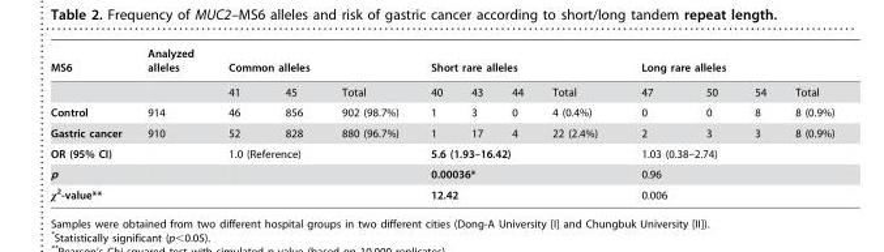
<table><thead><tr><td rowspan="2">MS6</td><td rowspan="2">Analyzed alleles</td><td colspan="3">Common alleles</td><td colspan="4">Short rare alleles</td><td colspan="4">Long rare alleles</td></tr><tr><td>41</td><td>45</td><td>Total</td><td>40</td><td>43</td><td>44</td><td>Total</td><td>47</td><td>50</td><td>54</td><td>Total</td></tr></thead><tbody><tr><td>Control</td><td>914</td><td>46</td><td>856</td><td>902 (98.7%)</td><td>1</td><td>3</td><td>0</td><td>4 (0.4%)</td><td>0</td><td>0</td><td>8</td><td>8 (0.9%)</td></tr><tr><td>Gastric cancer</td><td>910</td><td>52</td><td>828</td><td>880 (96.7%)</td><td>1</td><td>17</td><td>4</td><td>22 (2.4%)</td><td>2</td><td>3</td><td>3</td><td>8 (0.9%)</td></tr><tr><td>OR (95% CI)</td><td></td><td colspan="3">1.0 (Reference)</td><td colspan="4">5.6 (1.93–16.42)</td><td colspan="4">1.03 (0.38–2.74)</td></tr><tr><td>p</td><td></td><td colspan="3"></td><td colspan="4">0.00036*</td><td colspan="4">0.96</td></tr><tr><td>χ<sup>2</sup>-value**</td><td></td><td colspan="3"></td><td colspan="4">12.42</td><td colspan="4">0.006</td></tr></tbody></table>